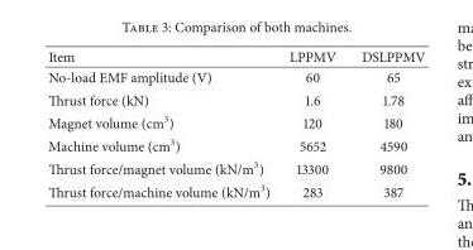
<table><thead><tr><td>Item</td><td>LPPMV</td><td>DSLPPMV</td></tr></thead><tbody><tr><td>No-load EMF amplitude (V)</td><td>60</td><td>65</td></tr><tr><td>Thrust force (kN)</td><td>1.6</td><td>1.78</td></tr><tr><td>Magnet volume (cm<sup>3</sup>)</td><td>120</td><td>180</td></tr><tr><td>Machine volume (cm<sup>3</sup>)</td><td>5652</td><td>4590</td></tr><tr><td>Thrust force/magnet volume (kN/m<sup>3</sup>)</td><td>13300</td><td>9800</td></tr><tr><td>Thrust force/machine volume (kN/m<sup>3</sup>)</td><td>283</td><td>387</td></tr></tbody></table>